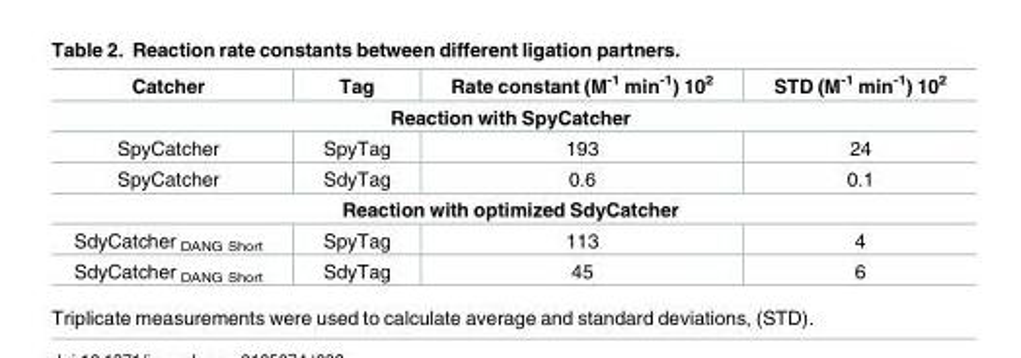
<table><thead><tr><td>Catcher</td><td>Tag</td><td>Rate constant (M<sup>-1</sup> min<sup>-1</sup>) 10<sup>2</sup></td><td>STD (M<sup>-1</sup> min<sup>-1</sup>) 10<sup>2</sup></td></tr></thead><tbody><tr><td colspan="4">Reaction with SpyCatcher</td></tr><tr><td>SpyCatcher</td><td>SpyTag</td><td>193</td><td>24</td></tr><tr><td>SpyCatcher</td><td>SdyTag</td><td>0.6</td><td>0.1</td></tr><tr><td colspan="4">Reaction with optimized SdyCatcher</td></tr><tr><td>SdyCatcher <sub>DANG Short</sub></td><td>SpyTag</td><td>113</td><td>4</td></tr><tr><td>SdyCatcher <sub>DANG Short</sub></td><td>SdyTag</td><td>45</td><td>6</td></tr></tbody></table>